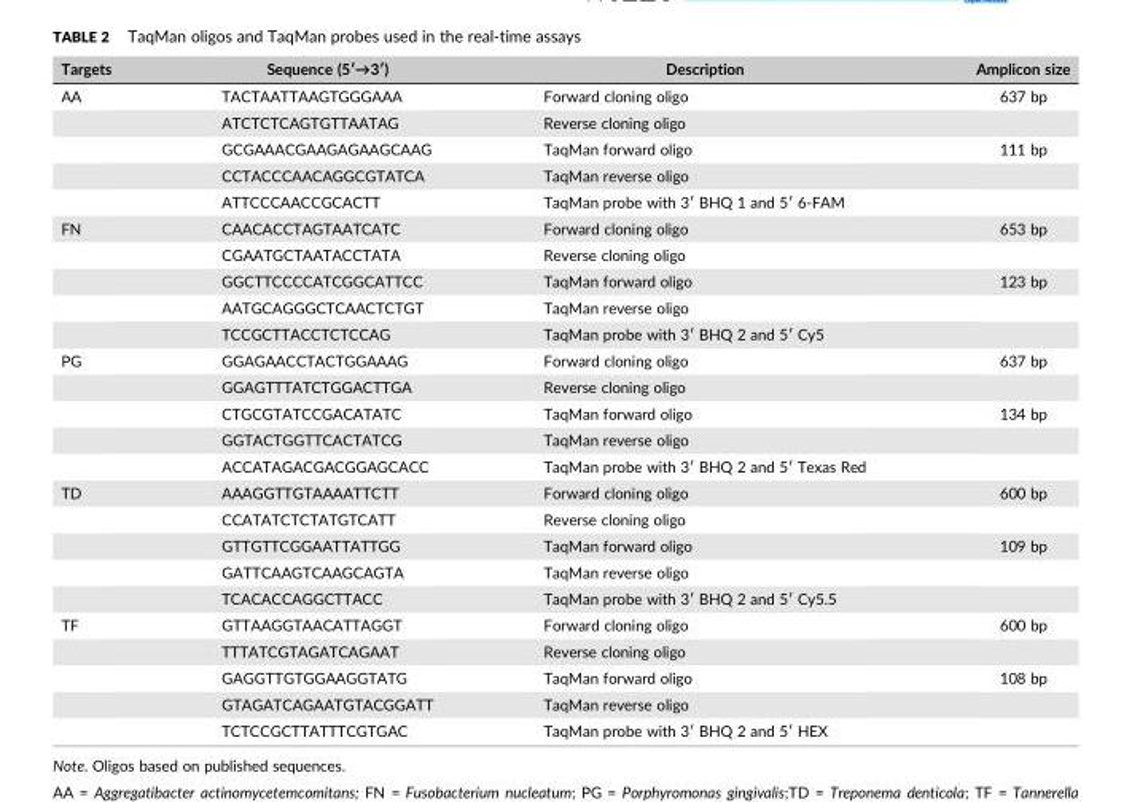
<table><thead><tr><td>Targets</td><td>Sequence (5′→3′)</td><td>Description</td><td>Amplicon size</td></tr></thead><tbody><tr><td rowspan="5">AA</td><td>TACTAATTAAGTGGGAAA</td><td>Forward cloning oligo</td><td>637 bp</td></tr><tr><td>ATCTCTCAGTGTTAATAG</td><td>Reverse cloning oligo</td><td></td></tr><tr><td>GCGAAACGAAGAGAAGCAAG</td><td>TaqMan forward oligo</td><td>111 bp</td></tr><tr><td>CCTACCCAACAGGCGTATCA</td><td>TaqMan reverse oligo</td><td></td></tr><tr><td>ATTCCCAACCGCACTT</td><td>TaqMan probe with 3′ BHQ 1 and 5′ 6‐FAM</td><td></td></tr><tr><td rowspan="5">FN</td><td>CAACACCTAGTAATCATC</td><td>Forward cloning oligo</td><td>653 bp</td></tr><tr><td>CGAATGCTAATACCTATA</td><td>Reverse cloning oligo</td><td></td></tr><tr><td>GGCTTCCCCATCGGCATTCC</td><td>TaqMan forward oligo</td><td>123 bp</td></tr><tr><td>AATGCAGGGCTCAACTCTGT</td><td>TaqMan reverse oligo</td><td></td></tr><tr><td>TCCGCTTACCTCTCCAG</td><td>TaqMan probe with 3′ BHQ 2 and 5′ Cy5</td><td></td></tr><tr><td rowspan="5">PG</td><td>GGAGAACCTACTGGAAAG</td><td>Forward cloning oligo</td><td>637 bp</td></tr><tr><td>GGAGTTTATCTGGACTTGA</td><td>Reverse cloning oligo</td><td></td></tr><tr><td>CTGCGTATCCGACATATC</td><td>TaqMan forward oligo</td><td>134 bp</td></tr><tr><td>GGTACTGGTTCACTATCG</td><td>TaqMan reverse oligo</td><td></td></tr><tr><td>ACCATAGACGACGGAGCACC</td><td>TaqMan probe with 3′ BHQ 2 and 5′ Texas Red</td><td></td></tr><tr><td rowspan="5">TD</td><td>AAAGGTTGTAAAATTCTT</td><td>Forward cloning oligo</td><td>600 bp</td></tr><tr><td>CCATATCTCTATGTCATT</td><td>Reverse cloning oligo</td><td></td></tr><tr><td>GTTGTTCGGAATTATTGG</td><td>TaqMan forward oligo</td><td>109 bp</td></tr><tr><td>GATTCAAGTCAAGCAGTA</td><td>TaqMan reverse oligo</td><td></td></tr><tr><td>TCACACCAGGCTTACC</td><td>TaqMan probe with 3′ BHQ 2 and 5′ Cy5.5</td><td></td></tr><tr><td rowspan="5">TF</td><td>GTTAAGGTAACATTAGGT</td><td>Forward cloning oligo</td><td>600 bp</td></tr><tr><td>TTTATCGTAGATCAGAAT</td><td>Reverse cloning oligo</td><td></td></tr><tr><td>GAGGTTGTGGAAGGTATG</td><td>TaqMan forward oligo</td><td>108 bp</td></tr><tr><td>GTAGATCAGAATGTACGGATT</td><td>TaqMan reverse oligo</td><td></td></tr><tr><td>TCTCCGCTTATTTCGTGAC</td><td>TaqMan probe with 3′ BHQ 2 and 5′ HEX</td><td></td></tr></tbody></table>